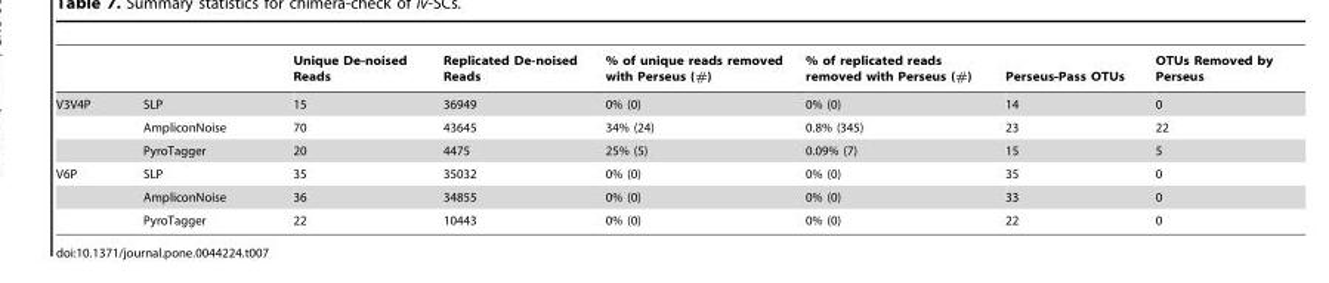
<table><thead><tr><td></td><td></td><td>Unique De-noised Reads</td><td>Replicated De-noised Reads</td><td>% of unique reads removed with Perseus (#)</td><td>% of replicated reads removed with Perseus (#)</td><td>Perseus-Pass OTUs</td><td>OTUs Removed by Perseus</td></tr></thead><tbody><tr><td rowspan="3">V3V4P</td><td>SLP</td><td>15</td><td>36949</td><td>0% (0)</td><td>0% (0)</td><td>14</td><td>0</td></tr><tr><td>AmpliconNoise</td><td>70</td><td>43645</td><td>34% (24)</td><td>0.8% (345)</td><td>23</td><td>22</td></tr><tr><td>PyroTagger</td><td>20</td><td>4475</td><td>25% (5)</td><td>0.09% (7)</td><td>15</td><td>5</td></tr><tr><td rowspan="3">V6P</td><td>SLP</td><td>35</td><td>35032</td><td>0% (0)</td><td>0% (0)</td><td>35</td><td>0</td></tr><tr><td>AmpliconNoise</td><td>36</td><td>34855</td><td>0% (0)</td><td>0% (0)</td><td>33</td><td>0</td></tr><tr><td>PyroTagger</td><td>22</td><td>10443</td><td>0% (0)</td><td>0% (0)</td><td>22</td><td>0</td></tr></tbody></table>